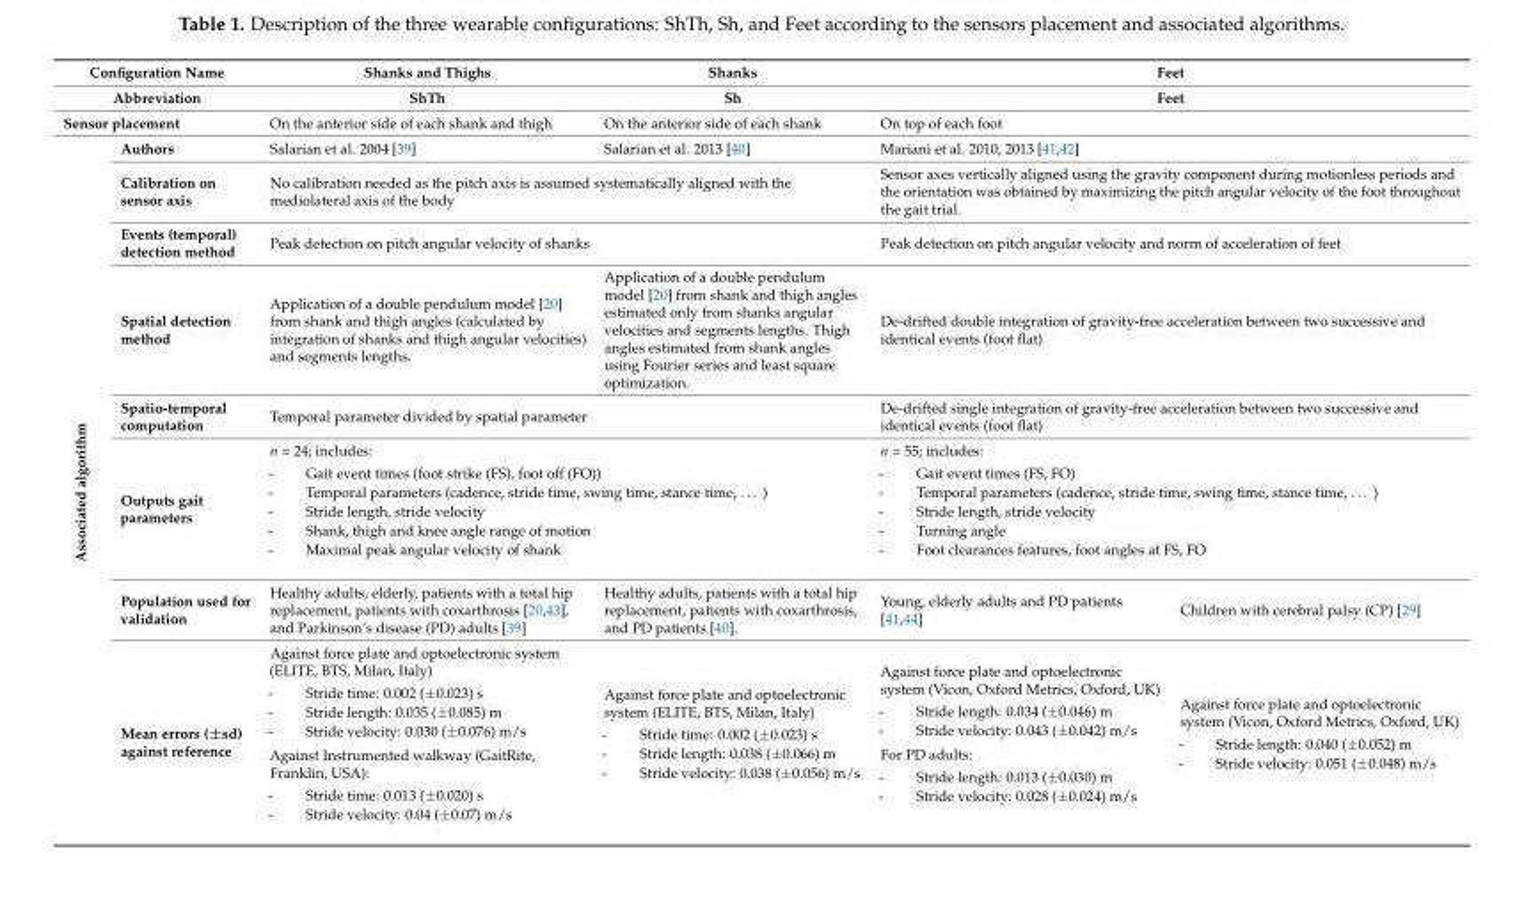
<table><thead><tr><td rowspan="2" colspan="2">Configuration Name Abbreviation</td><td rowspan="2">Shanks and Thighs ShTh</td><td rowspan="2">Shanks Sh</td><td rowspan="2" colspan="2">Feet Feet</td></tr><tr></tr></thead><tbody><tr><td colspan="2">Sensor placement</td><td>On the anterior side of each shank and thigh</td><td>On the anterior side of each shank</td><td colspan="2">On top of each foot</td></tr><tr><td rowspan="8">Associated algorithm</td><td>Authors</td><td>Salarian et al. 2004 [39]</td><td>Salarian et al. 2013 [40]</td><td colspan="2">Mariani et al. 2010, 2013 [41,42]</td></tr><tr><td>Calibration on sensor axis</td><td colspan="2">No calibration needed as the pitch axis is assumed systematically aligned with the mediolateral axis of the body</td><td colspan="2">Sensor axes vertically aligned using the gravity component during motionless periods and the orientation was obtained by maximizing the pitch angular velocity of the foot throughout the gait trial.</td></tr><tr><td>Events (temporal) detection method</td><td colspan="2">Peak detection on pitch angular velocity of shanks</td><td colspan="2">Peak detection on pitch angular velocity and norm of acceleration of feet</td></tr><tr><td>Spatial detection method</td><td>Application of a double pendulum model [20] from shank and thigh angles (calculated by integration of shanks and thigh angular velocities) and segments lengths.</td><td>Application of a double pendulum model [20] from shank and thigh angles estimated only from shanks angular velocities and segments lengths. Thigh angles estimated from shank angles using Fourier series and least square optimization.</td><td colspan="2">De-drifted double integration of gravity-free acceleration between two successive and identical events (foot flat)</td></tr><tr><td>Spatio-temporal computation</td><td colspan="2">Temporal parameter divided by spatial parameter</td><td colspan="2">De-drifted single integration of gravity-free acceleration between two successive and identical events (foot flat)</td></tr><tr><td>Outputs gait parameters</td><td colspan="2">n = 24; includes: - Gait event times (foot strike (FS), foot off (FO)) - Temporal parameters (cadence, stride time, swing time, stance time, . . . ) - Stride length, stride velocity - Shank, thigh and knee angle range of motion - Maximal peak angular velocity of shank</td><td colspan="2">n = 55; includes: - Gait event times (FS, FO) - Temporal parameters (cadence, stride time, swing time, stance time, . . . ) - Stride length, stride velocity - Turning angle - Foot clearances features, foot angles at FS, FO</td></tr><tr><td>Population used for validation</td><td>Healthy adults, elderly, patients with a total hip replacement, patients with coxarthrosis [20,43], and Parkinson’s disease (PD) adults [39]</td><td>Healthy adults, patients with a total hip replacement, patients with coxarthrosis, and PD patients [40].</td><td>Young, elderly adults and PD patients [41,44]</td><td>Children with cerebral palsy (CP) [29]</td></tr><tr><td>Mean errors (±sd) against reference</td><td>Against force plate and optoelectronic system (ELITE, BTS, Milan, Italy) - Stride time: 0.002 (±0.023) s - Stride length: 0.035 (±0.085) m - Stride velocity: 0.030 (±0.076) m/s Against Instrumented walkway (GaitRite, Franklin, USA): - Stride time: 0.013 (±0.020) s - Stride velocity: 0.04 (±0.07) m/s</td><td>Against force plate and optoelectronic system (ELITE, BTS, Milan, Italy) - Stride time: 0.002 (±0.023) s - Stride length: 0.038 (±0.066) m - Stride velocity: 0.038 (±0.056) m/s</td><td>Against force plate and optoelectronic system (Vicon, Oxford Metrics, Oxford, UK) - Stride length: 0.034 (±0.046) m - Stride velocity: 0.043 (±0.042) m/s For PD adults: - Stride length: 0.013 (±0.030) m - Stride velocity: 0.028 (±0.024) m/s</td><td>Against force plate and optoelectronic system (Vicon, Oxford Metrics, Oxford, UK) - Stride length: 0.040 (±0.052) m - Stride velocity: 0.051 (±0.048) m/s</td></tr></tbody></table>